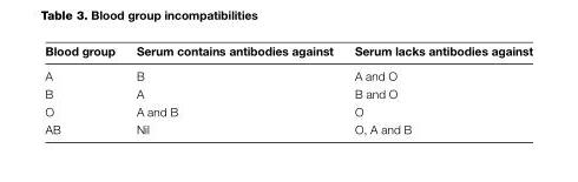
<table><thead><tr><td>Blood group</td><td>Serum contains antibodies against</td><td>Serum lacks antibodies against</td></tr></thead><tbody><tr><td>A</td><td>B</td><td>A and O</td></tr><tr><td>B</td><td>A</td><td>B and O</td></tr><tr><td>O</td><td>A and B</td><td>O</td></tr><tr><td>AB</td><td>Nil</td><td>O, A and B</td></tr></tbody></table>